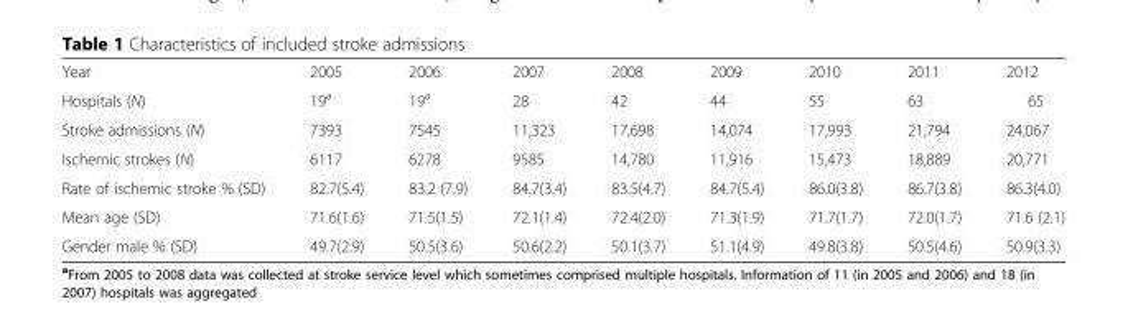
<table><tbody><tr><td>Year</td><td>2005</td><td>2006</td><td>2007</td><td>2008</td><td>2009</td><td>2010</td><td>2011</td><td>2012</td></tr><tr><td>Hospitals (N)</td><td>19<sup>a</sup></td><td>19<sup>a</sup></td><td>28</td><td>42</td><td>44</td><td>55</td><td>63</td><td>65</td></tr><tr><td>Stroke admissions (N)</td><td>7393</td><td>7545</td><td>11,323</td><td>17,698</td><td>14,074</td><td>17,993</td><td>21,794</td><td>24,067</td></tr><tr><td>Ischemic strokes (N)</td><td>6117</td><td>6278</td><td>9585</td><td>14,780</td><td>11,916</td><td>15,473</td><td>18,889</td><td>20,771</td></tr><tr><td>Rate of ischemic stroke % (SD)</td><td>82.7(5.4)</td><td>83.2 (7.9)</td><td>84.7(3.4)</td><td>83.5(4.7)</td><td>84.7(5.4)</td><td>86.0(3.8)</td><td>86.7(3.8)</td><td>86.3(4.0)</td></tr><tr><td>Mean age (SD)</td><td>71.6(1.6)</td><td>71.5(1.5)</td><td>72.1(1.4)</td><td>72.4(2.0)</td><td>71.3(1.9)</td><td>71.7(1.7)</td><td>72.0(1.7)</td><td>71.6 (2.1)</td></tr><tr><td>Gender male % (SD)</td><td>49.7(2.9)</td><td>50.5(3.6)</td><td>50.6(2.2)</td><td>50.1(3.7)</td><td>51.1(4.9)</td><td>49.8(3.8)</td><td>50.5(4.6)</td><td>50.9(3.3)</td></tr></tbody></table>